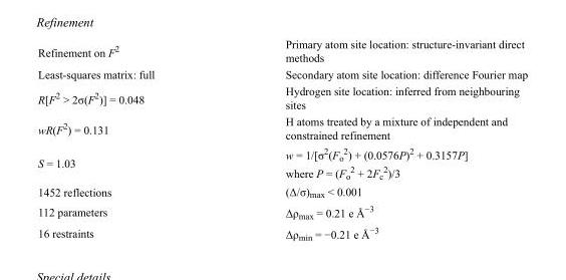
<table><tbody><tr><td>Refinement on F<sup>2</sup></td><td>Primary atom site location: structure-invariant direct methods</td></tr><tr><td>Least-squares matrix: full</td><td>Secondary atom site location: difference Fourier map</td></tr><tr><td>R[F<sup>2</sup> &gt; 2σ(F<sup>2</sup>)] = 0.048</td><td>Hydrogen site location: inferred from neighbouring sites</td></tr><tr><td>wR(F<sup>2</sup>) = 0.131</td><td>H atoms treated by a mixture of independent and constrained refinement</td></tr><tr><td>S = 1.03</td><td>w = 1/[σ<sup>2</sup>(F<sub>o</sub> <sup>2</sup>) + (0.0576P)<sup>2</sup> + 0.3157P] where P = (F<sub>o</sub> <sup>2</sup> + 2F<sub>c</sub> <sup>2</sup>)/3</td></tr><tr><td>1452 reflections</td><td>(Δ/σ)<sub>max</sub> &lt; 0.001</td></tr><tr><td>112 parameters</td><td>Δρ<sub>max</sub> = 0.21 e Å<sup>−3</sup></td></tr><tr><td>16 restraints</td><td>Δρ<sub>min</sub> = −0.21 e Å<sup>−3</sup></td></tr></tbody></table>